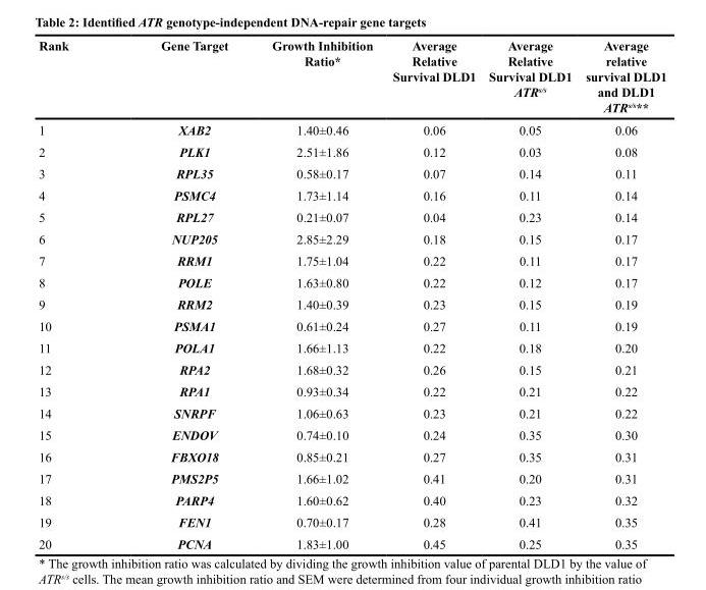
<table><thead><tr><td>Rank</td><td>Gene Target</td><td>Growth Inhibition Ratio*</td><td>Average Relative Survival DLD1</td><td>Average Relative Survival DLD1 ATR<sup>s/s</sup></td><td>Average relative survival DLD1 and DLD1 ATR<sup>s/s</sup>**</td></tr></thead><tbody><tr><td>1</td><td>XAB2</td><td>1.40±0.46</td><td>0.06</td><td>0.05</td><td>0.06</td></tr><tr><td>2</td><td>PLK1</td><td>2.51±1.86</td><td>0.12</td><td>0.03</td><td>0.08</td></tr><tr><td>3</td><td>RPL35</td><td>0.58±0.17</td><td>0.07</td><td>0.14</td><td>0.11</td></tr><tr><td>4</td><td>PSMC4</td><td>1.73±1.14</td><td>0.16</td><td>0.11</td><td>0.14</td></tr><tr><td>5</td><td>RPL27</td><td>0.21±0.07</td><td>0.04</td><td>0.23</td><td>0.14</td></tr><tr><td>6</td><td>NUP205</td><td>2.85±2.29</td><td>0.18</td><td>0.15</td><td>0.17</td></tr><tr><td>7</td><td>RRM1</td><td>1.75±1.04</td><td>0.22</td><td>0.11</td><td>0.17</td></tr><tr><td>8</td><td>POLE</td><td>1.63±0.80</td><td>0.22</td><td>0.12</td><td>0.17</td></tr><tr><td>9</td><td>RRM2</td><td>1.40±0.39</td><td>0.23</td><td>0.15</td><td>0.19</td></tr><tr><td>10</td><td>PSMA1</td><td>0.61±0.24</td><td>0.27</td><td>0.11</td><td>0.19</td></tr><tr><td>11</td><td>POLA1</td><td>1.66±1.13</td><td>0.22</td><td>0.18</td><td>0.20</td></tr><tr><td>12</td><td>RPA2</td><td>1.68±0.32</td><td>0.26</td><td>0.15</td><td>0.21</td></tr><tr><td>13</td><td>RPA1</td><td>0.93±0.34</td><td>0.22</td><td>0.21</td><td>0.22</td></tr><tr><td>14</td><td>SNRPF</td><td>1.06±0.63</td><td>0.23</td><td>0.21</td><td>0.22</td></tr><tr><td>15</td><td>ENDOV</td><td>0.74±0.10</td><td>0.24</td><td>0.35</td><td>0.30</td></tr><tr><td>16</td><td>FBXO18</td><td>0.85±0.21</td><td>0.27</td><td>0.35</td><td>0.31</td></tr><tr><td>17</td><td>PMS2P5</td><td>1.66±1.02</td><td>0.41</td><td>0.20</td><td>0.31</td></tr><tr><td>18</td><td>PARP4</td><td>1.60±0.62</td><td>0.40</td><td>0.23</td><td>0.32</td></tr><tr><td>19</td><td>FEN1</td><td>0.70±0.17</td><td>0.28</td><td>0.41</td><td>0.35</td></tr><tr><td>20</td><td>PCNA</td><td>1.83±1.00</td><td>0.45</td><td>0.25</td><td>0.35</td></tr></tbody></table>